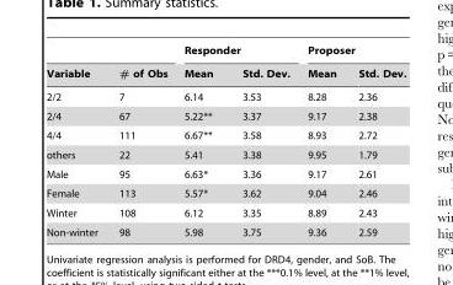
<table><thead><tr><td rowspan="2">Variable</td><td rowspan="2"># of Obs</td><td colspan="2">Responder</td><td colspan="2">Proposer</td></tr><tr><td>Mean</td><td>Std. Dev.</td><td>Mean</td><td>Std. Dev.</td></tr></thead><tbody><tr><td>2/2</td><td>7</td><td>6.14</td><td>3.53</td><td>8.28</td><td>2.36</td></tr><tr><td>2/4</td><td>67</td><td>5.22**</td><td>3.37</td><td>9.17</td><td>2.38</td></tr><tr><td>4/4</td><td>111</td><td>6.67**</td><td>3.58</td><td>8.93</td><td>2.72</td></tr><tr><td>others</td><td>22</td><td>5.41</td><td>3.38</td><td>9.95</td><td>1.79</td></tr><tr><td>Male</td><td>95</td><td>6.63*</td><td>3.36</td><td>9.17</td><td>2.61</td></tr><tr><td>Female</td><td>113</td><td>5.57*</td><td>3.62</td><td>9.04</td><td>2.46</td></tr><tr><td>Winter</td><td>108</td><td>6.12</td><td>3.35</td><td>8.89</td><td>2.43</td></tr><tr><td>Non-winter</td><td>98</td><td>5.98</td><td>3.75</td><td>9.36</td><td>2.59</td></tr></tbody></table>